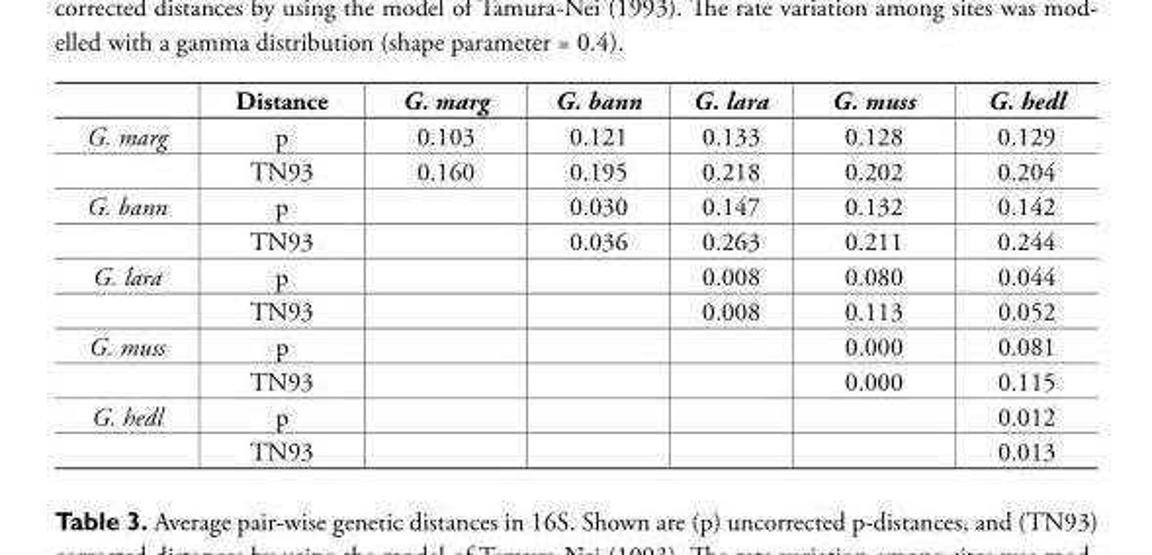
<table><thead><tr><td></td><td>Distance</td><td>G. marg</td><td>G. bann</td><td>G. lara</td><td>G. muss</td><td>G. hedl</td></tr></thead><tbody><tr><td rowspan="2">G. marg</td><td>p</td><td>0.103</td><td>0.121</td><td>0.133</td><td>0.128</td><td>0.129</td></tr><tr><td>TN93</td><td>0.160</td><td>0.195</td><td>0.218</td><td>0.202</td><td>0.204</td></tr><tr><td rowspan="2">G. bann</td><td>p</td><td></td><td>0.030</td><td>0.147</td><td>0.132</td><td>0.142</td></tr><tr><td>TN93</td><td></td><td>0.036</td><td>0.263</td><td>0.211</td><td>0.244</td></tr><tr><td rowspan="2">G. lara</td><td>p</td><td></td><td></td><td>0.008</td><td>0.080</td><td>0.044</td></tr><tr><td>TN93</td><td></td><td></td><td>0.008</td><td>0.113</td><td>0.052</td></tr><tr><td rowspan="2">G. muss</td><td>p</td><td></td><td></td><td></td><td>0.000</td><td>0.081</td></tr><tr><td>TN93</td><td></td><td></td><td></td><td>0.000</td><td>0.115</td></tr><tr><td rowspan="2">G. hedl</td><td>p</td><td></td><td></td><td></td><td></td><td>0.012</td></tr><tr><td>TN93</td><td></td><td></td><td></td><td></td><td>0.013</td></tr></tbody></table>